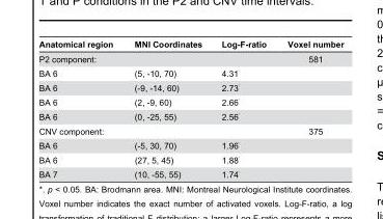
<table><thead><tr><td>Anatomical region</td><td>MNI Coordinates</td><td>Log-F-ratio</td><td>Voxel number</td></tr></thead><tbody><tr><td colspan="3">P2 component:</td><td>581</td></tr><tr><td>BA 6</td><td>(5, -10, 70)</td><td>4.31 *</td><td></td></tr><tr><td>BA 6</td><td>(-9, -14, 60)</td><td>2.73 *</td><td></td></tr><tr><td>BA 6</td><td>(2, -9, 60)</td><td>2.66 *</td><td></td></tr><tr><td>BA 6</td><td>(0, -25, 55)</td><td>2.56 *</td><td></td></tr><tr><td colspan="3">CNV component:</td><td>375</td></tr><tr><td>BA 6</td><td>(-5, 30, 70)</td><td>1.96 *</td><td></td></tr><tr><td>BA 6</td><td>(27, 5, 45)</td><td>1.88 *</td><td></td></tr><tr><td>BA 7</td><td>(10, -55, 55)</td><td>1.74 *</td><td></td></tr></tbody></table>